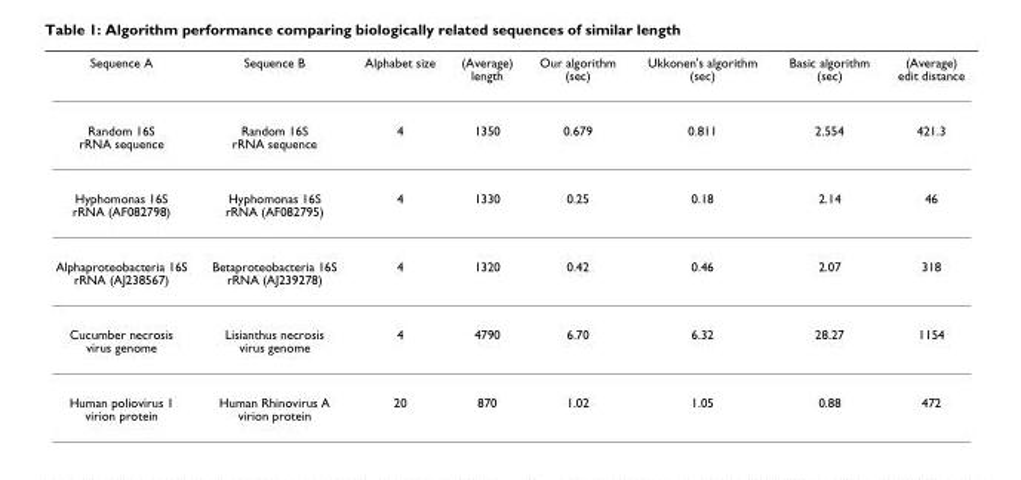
<table><thead><tr><td>Sequence A</td><td>Sequence B</td><td>Alphabet size</td><td>(Average) length</td><td>Our algorithm (sec)</td><td>Ukkonen&#x27;s algorithm (sec)</td><td>Basic algorithm (sec)</td><td>(Average) edit distance</td></tr></thead><tbody><tr><td>Random 16S rRNA sequence</td><td>Random 16S rRNA sequence</td><td>4</td><td>1350</td><td>0.679</td><td>0.811</td><td>2.554</td><td>421.3</td></tr><tr><td>Hyphomonas 16S rRNA (AF082798)</td><td>Hyphomonas 16S rRNA (AF082795)</td><td>4</td><td>1330</td><td>0.25</td><td>0.18</td><td>2.14</td><td>46</td></tr><tr><td>Alphaproteobacteria 16S rRNA (AJ238567)</td><td>Betaproteobacteria 16S rRNA (AJ239278)</td><td>4</td><td>1320</td><td>0.42</td><td>0.46</td><td>2.07</td><td>318</td></tr><tr><td>Cucumber necrosis virus genome</td><td>Lisianthus necrosis virus genome</td><td>4</td><td>4790</td><td>6.70</td><td>6.32</td><td>28.27</td><td>1154</td></tr><tr><td>Human poliovirus 1 virion protein</td><td>Human Rhinovirus A virion protein</td><td>20</td><td>870</td><td>1.02</td><td>1.05</td><td>0.88</td><td>472</td></tr></tbody></table>